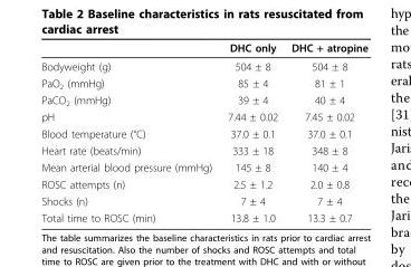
<table><thead><tr><td></td><td>DHC only</td><td>DHC + atropine</td></tr></thead><tbody><tr><td>Bodyweight (g)</td><td>504 ± 8</td><td>504 ± 8</td></tr><tr><td>PaO<sub>2</sub> (mmHg)</td><td>85 ± 4</td><td>81 ± 1</td></tr><tr><td>PaCO<sub>2</sub> (mmHg)</td><td>39 ± 4</td><td>40 ± 4</td></tr><tr><td>pH</td><td>7.44 ± 0.02</td><td>7.45 ± 0.02</td></tr><tr><td>Blood temperature (°C)</td><td>37.0 ± 0.1</td><td>37.0 ± 0.1</td></tr><tr><td>Heart rate (beats/min)</td><td>333 ± 18</td><td>348 ± 8</td></tr><tr><td>Mean arterial blood pressure (mmHg)</td><td>145 ± 8</td><td>140 ± 4</td></tr><tr><td>ROSC attempts (n)</td><td>2.5 ± 1.2</td><td>2.0 ± 0.8</td></tr><tr><td>Shocks (n)</td><td>7 ± 4</td><td>7 ± 4</td></tr><tr><td>Total time to ROSC (min)</td><td>13.8 ± 1.0</td><td>13.3 ± 0.7</td></tr></tbody></table>